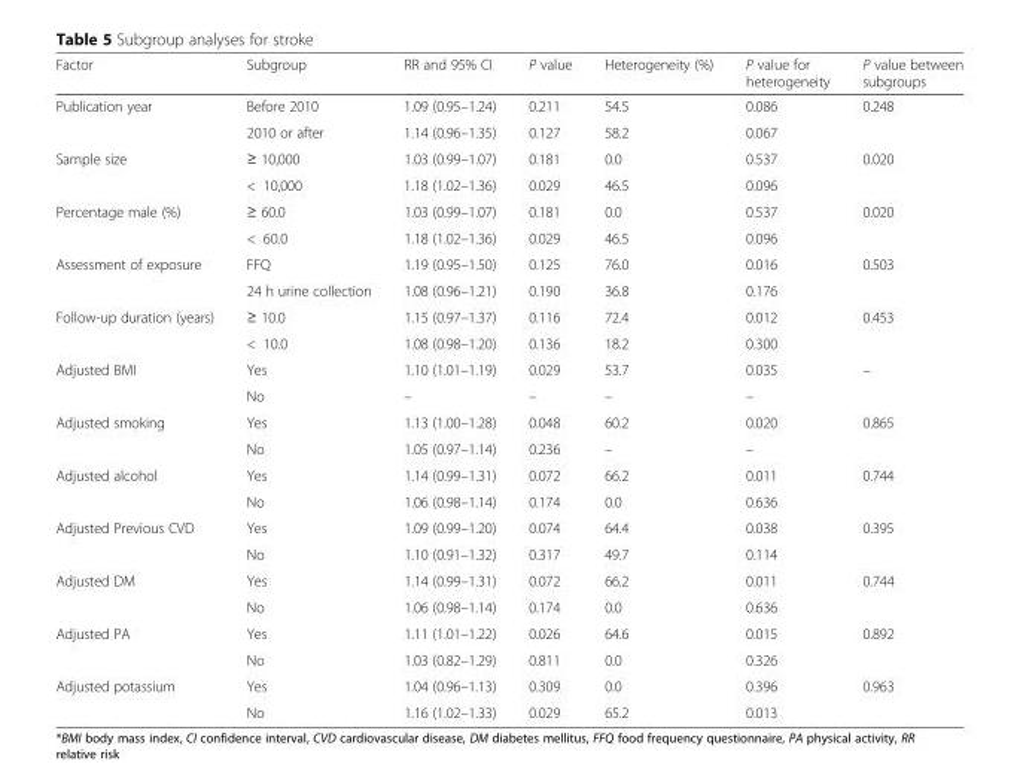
<table><thead><tr><td>Factor</td><td>Subgroup</td><td>RR and 95% CI</td><td>P value</td><td>Heterogeneity (%)</td><td>P value for heterogeneity</td><td>P value between subgroups</td></tr></thead><tbody><tr><td rowspan="2">Publication year</td><td>Before 2010</td><td>1.09 (0.95–1.24)</td><td>0.211</td><td>54.5</td><td>0.086</td><td rowspan="2">0.248</td></tr><tr><td>2010 or after</td><td>1.14 (0.96–1.35)</td><td>0.127</td><td>58.2</td><td>0.067</td></tr><tr><td rowspan="2">Sample size</td><td>≥ 10,000</td><td>1.03 (0.99–1.07)</td><td>0.181</td><td>0.0</td><td>0.537</td><td rowspan="2">0.020</td></tr><tr><td>&lt; 10,000</td><td>1.18 (1.02–1.36)</td><td>0.029</td><td>46.5</td><td>0.096</td></tr><tr><td rowspan="2">Percentage male (%)</td><td>≥ 60.0</td><td>1.03 (0.99–1.07)</td><td>0.181</td><td>0.0</td><td>0.537</td><td rowspan="2">0.020</td></tr><tr><td>&lt; 60.0</td><td>1.18 (1.02–1.36)</td><td>0.029</td><td>46.5</td><td>0.096</td></tr><tr><td rowspan="2">Assessment of exposure</td><td>FFQ</td><td>1.19 (0.95–1.50)</td><td>0.125</td><td>76.0</td><td>0.016</td><td rowspan="2">0.503</td></tr><tr><td>24 h urine collection</td><td>1.08 (0.96–1.21)</td><td>0.190</td><td>36.8</td><td>0.176</td></tr><tr><td rowspan="2">Follow-up duration (years)</td><td>≥ 10.0</td><td>1.15 (0.97–1.37)</td><td>0.116</td><td>72.4</td><td>0.012</td><td rowspan="2">0.453</td></tr><tr><td>&lt; 10.0</td><td>1.08 (0.98–1.20)</td><td>0.136</td><td>18.2</td><td>0.300</td></tr><tr><td rowspan="2">Adjusted BMI</td><td>Yes</td><td>1.10 (1.01–1.19)</td><td>0.029</td><td>53.7</td><td>0.035</td><td rowspan="2">–</td></tr><tr><td>No</td><td>–</td><td>–</td><td>–</td><td>–</td></tr><tr><td rowspan="2">Adjusted smoking</td><td>Yes</td><td>1.13 (1.00–1.28)</td><td>0.048</td><td>60.2</td><td>0.020</td><td rowspan="2">0.865</td></tr><tr><td>No</td><td>1.05 (0.97–1.14)</td><td>0.236</td><td>–</td><td>–</td></tr><tr><td rowspan="2">Adjusted alcohol</td><td>Yes</td><td>1.14 (0.99–1.31)</td><td>0.072</td><td>66.2</td><td>0.011</td><td rowspan="2">0.744</td></tr><tr><td>No</td><td>1.06 (0.98–1.14)</td><td>0.174</td><td>0.0</td><td>0.636</td></tr><tr><td rowspan="2">Adjusted Previous CVD</td><td>Yes</td><td>1.09 (0.99–1.20)</td><td>0.074</td><td>64.4</td><td>0.038</td><td rowspan="2">0.395</td></tr><tr><td>No</td><td>1.10 (0.91–1.32)</td><td>0.317</td><td>49.7</td><td>0.114</td></tr><tr><td rowspan="2">Adjusted DM</td><td>Yes</td><td>1.14 (0.99–1.31)</td><td>0.072</td><td>66.2</td><td>0.011</td><td rowspan="2">0.744</td></tr><tr><td>No</td><td>1.06 (0.98–1.14)</td><td>0.174</td><td>0.0</td><td>0.636</td></tr><tr><td rowspan="2">Adjusted PA</td><td>Yes</td><td>1.11 (1.01–1.22)</td><td>0.026</td><td>64.6</td><td>0.015</td><td rowspan="2">0.892</td></tr><tr><td>No</td><td>1.03 (0.82–1.29)</td><td>0.811</td><td>0.0</td><td>0.326</td></tr><tr><td rowspan="2">Adjusted potassium</td><td>Yes</td><td>1.04 (0.96–1.13)</td><td>0.309</td><td>0.0</td><td>0.396</td><td rowspan="2">0.963</td></tr><tr><td>No</td><td>1.16 (1.02–1.33)</td><td>0.029</td><td>65.2</td><td>0.013</td></tr></tbody></table>